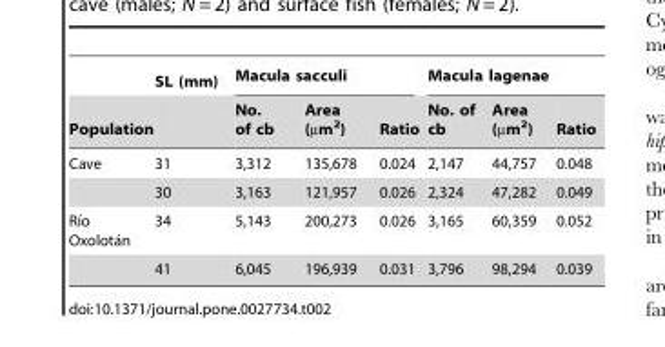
<table><thead><tr><td rowspan="2">Population</td><td rowspan="2">SL (mm)</td><td colspan="3">Macula sacculi</td><td colspan="3">Macula lagenae</td></tr><tr><td>No. of cb</td><td>Area (µm<sup>2</sup>)</td><td>Ratio</td><td>No. of cb</td><td>Area (µm<sup>2</sup>)</td><td>Ratio</td></tr></thead><tbody><tr><td rowspan="2">Cave</td><td>31</td><td>3,312</td><td>135,678</td><td>0.024</td><td>2,147</td><td>44,757</td><td>0.048</td></tr><tr><td>30</td><td>3,163</td><td>121,957</td><td>0.026</td><td>2,324</td><td>47,282</td><td>0.049</td></tr><tr><td rowspan="2">Rı´o Oxolota´n</td><td>34</td><td>5,143</td><td>200,273</td><td>0.026</td><td>3,165</td><td>60,359</td><td>0.052</td></tr><tr><td>41</td><td>6,045</td><td>196,939</td><td>0.031</td><td>3,796</td><td>98,294</td><td>0.039</td></tr></tbody></table>